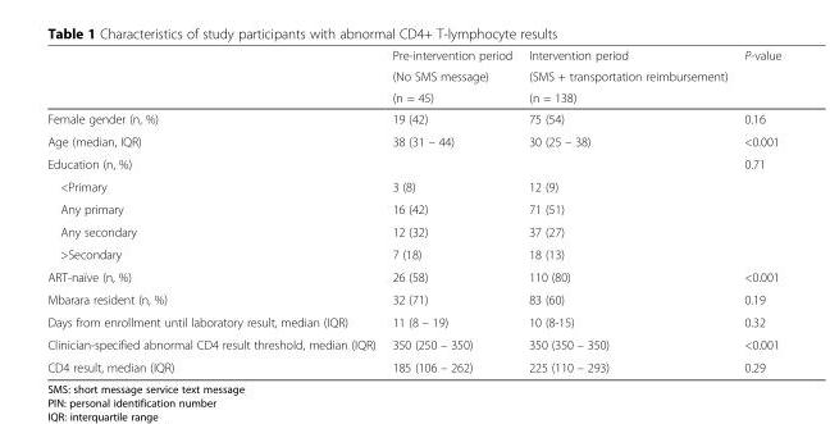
<table><thead><tr><td rowspan="3"></td><td rowspan="3">Pre-intervention period (No SMS message) (n = 45)</td><td rowspan="3">Intervention period (SMS + transportation reimbursement) (n = 138)</td><td rowspan="3">P-value</td></tr><tr></tr><tr></tr></thead><tbody><tr><td>Female gender (n, %)</td><td>19 (42)</td><td>75 (54)</td><td>0.16</td></tr><tr><td>Age (median, IQR)</td><td>38 (31 – 44)</td><td>30 (25 – 38)</td><td>&lt;0.001</td></tr><tr><td>Education (n, %)</td><td></td><td></td><td>0.71</td></tr><tr><td>&lt;Primary</td><td>3 (8)</td><td>12 (9)</td><td></td></tr><tr><td>Any primary</td><td>16 (42)</td><td>71 (51)</td><td></td></tr><tr><td>Any secondary</td><td>12 (32)</td><td>37 (27)</td><td></td></tr><tr><td>&gt;Secondary</td><td>7 (18)</td><td>18 (13)</td><td></td></tr><tr><td>ART-naïve (n, %)</td><td>26 (58)</td><td>110 (80)</td><td>&lt;0.001</td></tr><tr><td>Mbarara resident (n, %)</td><td>32 (71)</td><td>83 (60)</td><td>0.19</td></tr><tr><td>Days from enrollment until laboratory result, median (IQR)</td><td>11 (8 – 19)</td><td>10 (8-15)</td><td>0.32</td></tr><tr><td>Clinician-specified abnormal CD4 result threshold, median (IQR)</td><td>350 (250 – 350)</td><td>350 (350 – 350)</td><td>&lt;0.001</td></tr><tr><td>CD4 result, median (IQR)</td><td>185 (106 – 262)</td><td>225 (110 – 293)</td><td>0.29</td></tr></tbody></table>